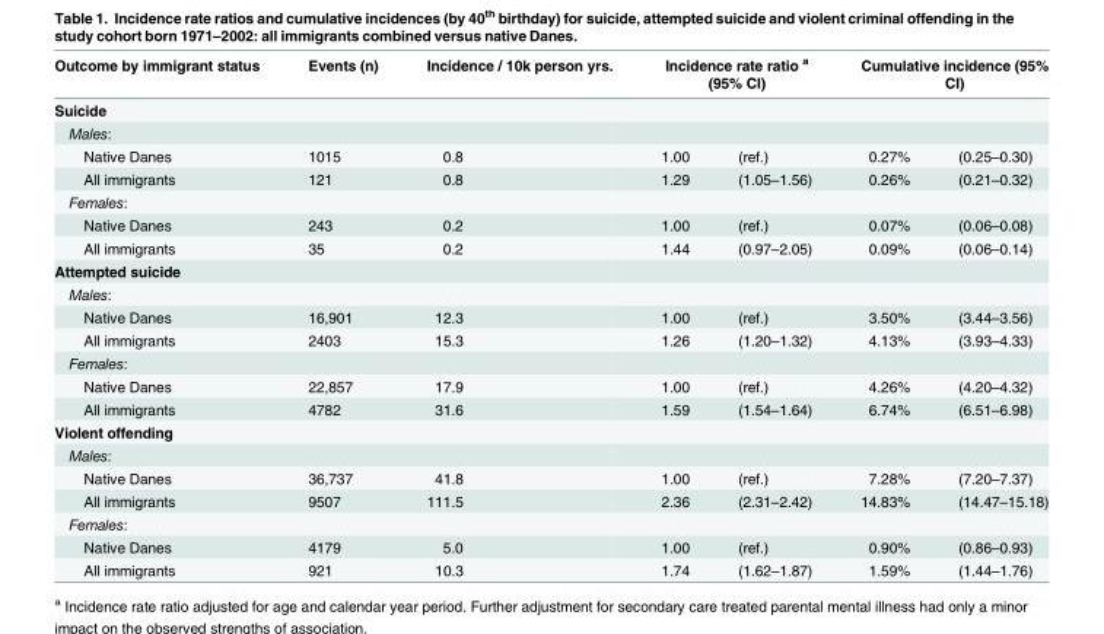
<table><thead><tr><td rowspan="2">Outcome by immigrant status Suicide</td><td rowspan="2">Events (n)</td><td rowspan="2">Incidence / 10k person yrs.</td><td colspan="2">Incidence rate ratio <sup>a</sup> (95% CI)</td><td colspan="2">Cumulative incidence (95% CI)</td></tr><tr><td></td><td></td><td></td><td></td></tr></thead><tbody><tr><td colspan="7">Males:</td></tr><tr><td>Native Danes</td><td>1015</td><td>0.8</td><td>1.00</td><td>(ref.)</td><td>0.27%</td><td>(0.25–0.30)</td></tr><tr><td>All immigrants</td><td>121</td><td>0.8</td><td>1.29</td><td>(1.05–1.56)</td><td>0.26%</td><td>(0.21–0.32)</td></tr><tr><td colspan="7">Females:</td></tr><tr><td>Native Danes</td><td>243</td><td>0.2</td><td>1.00</td><td>(ref.)</td><td>0.07%</td><td>(0.06–0.08)</td></tr><tr><td>All immigrants</td><td>35</td><td>0.2</td><td>1.44</td><td>(0.97–2.05)</td><td>0.09%</td><td>(0.06–0.14)</td></tr><tr><td colspan="7">Attempted suicide</td></tr><tr><td colspan="7">Males:</td></tr><tr><td>Native Danes</td><td>16,901</td><td>12.3</td><td>1.00</td><td>(ref.)</td><td>3.50%</td><td>(3.44–3.56)</td></tr><tr><td>All immigrants</td><td>2403</td><td>15.3</td><td>1.26</td><td>(1.20–1.32)</td><td>4.13%</td><td>(3.93–4.33)</td></tr><tr><td colspan="7">Females:</td></tr><tr><td>Native Danes</td><td>22,857</td><td>17.9</td><td>1.00</td><td>(ref.)</td><td>4.26%</td><td>(4.20–4.32)</td></tr><tr><td>All immigrants</td><td>4782</td><td>31.6</td><td>1.59</td><td>(1.54–1.64)</td><td>6.74%</td><td>(6.51–6.98)</td></tr><tr><td colspan="7">Violent offending</td></tr><tr><td colspan="7">Males:</td></tr><tr><td>Native Danes</td><td>36,737</td><td>41.8</td><td>1.00</td><td>(ref.)</td><td>7.28%</td><td>(7.20–7.37)</td></tr><tr><td>All immigrants</td><td>9507</td><td>111.5</td><td>2.36</td><td>(2.31–2.42)</td><td>14.83%</td><td>(14.47–15.18)</td></tr><tr><td colspan="7">Females:</td></tr><tr><td>Native Danes</td><td>4179</td><td>5.0</td><td>1.00</td><td>(ref.)</td><td>0.90%</td><td>(0.86–0.93)</td></tr><tr><td>All immigrants</td><td>921</td><td>10.3</td><td>1.74</td><td>(1.62–1.87)</td><td>1.59%</td><td>(1.44–1.76)</td></tr></tbody></table>